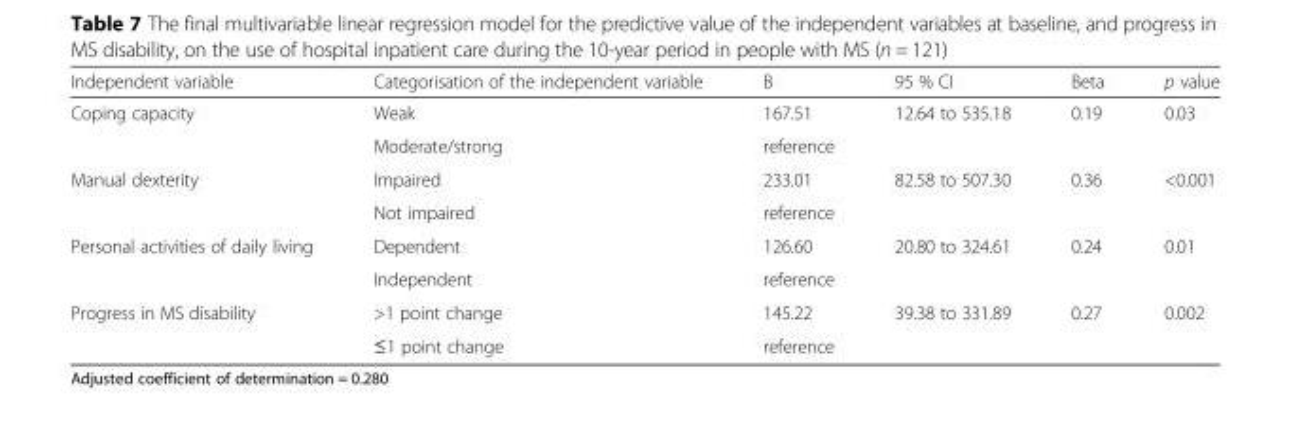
<table><thead><tr><td>Independent variable</td><td>Categorisation of the independent variable</td><td>B</td><td>95 % CI</td><td>Beta</td><td>p value</td></tr></thead><tbody><tr><td rowspan="2">Coping capacity</td><td>Weak</td><td>167.51</td><td rowspan="2">12.64 to 535.18</td><td rowspan="2">0.19</td><td rowspan="2">0.03</td></tr><tr><td>Moderate/strong</td><td>reference</td></tr><tr><td rowspan="2">Manual dexterity</td><td>Impaired</td><td>233.01</td><td rowspan="2">82.58 to 507.30</td><td rowspan="2">0.36</td><td rowspan="2">&lt;0.001</td></tr><tr><td>Not impaired</td><td>reference</td></tr><tr><td rowspan="2">Personal activities of daily living</td><td>Dependent</td><td>126.60</td><td rowspan="2">20.80 to 324.61</td><td rowspan="2">0.24</td><td rowspan="2">0.01</td></tr><tr><td>Independent</td><td>reference</td></tr><tr><td rowspan="2">Progress in MS disability</td><td>&gt;1 point change</td><td>145.22</td><td rowspan="2">39.38 to 331.89</td><td rowspan="2">0.27</td><td rowspan="2">0.002</td></tr><tr><td>≤1 point change</td><td>reference</td></tr></tbody></table>